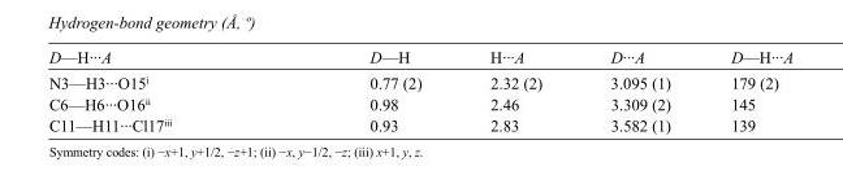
<table><tbody><tr><td>D—H···A</td><td>D—H</td><td>H···A</td><td>D···A</td><td>D—H···A</td></tr><tr><td>N3—H3···O15<sup>i</sup></td><td>0.77 (2)</td><td>2.32 (2)</td><td>3.095 (1)</td><td>179 (2)</td></tr><tr><td>C6—H6···O16<sup>ii</sup></td><td>0.98</td><td>2.46</td><td>3.309 (2)</td><td>145</td></tr><tr><td>C11—H11···Cl17<sup>iii</sup></td><td>0.93</td><td>2.83</td><td>3.582 (1)</td><td>139</td></tr></tbody></table>